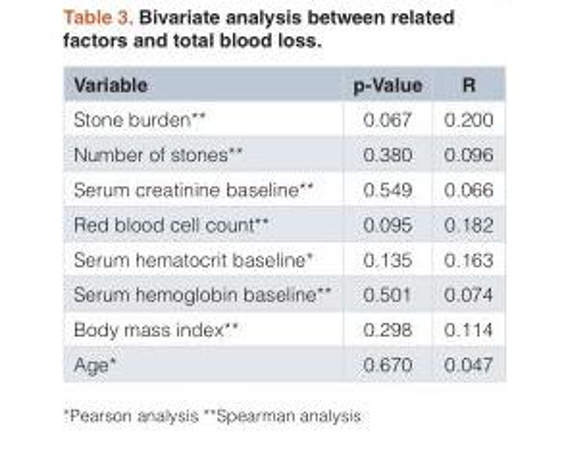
<table><thead><tr><td>Variable</td><td>p-Value</td><td>R</td></tr></thead><tbody><tr><td>Stone burden**</td><td>0.067</td><td>0.200</td></tr><tr><td>Number of stones**</td><td>0.380</td><td>0.096</td></tr><tr><td>Serum creatinine baseline**</td><td>0.549</td><td>0.066</td></tr><tr><td>Red blood cell count**</td><td>0.095</td><td>0.182</td></tr><tr><td>Serum hematocrit baseline*</td><td>0.135</td><td>0.163</td></tr><tr><td>Serum hemoglobin baseline**</td><td>0.501</td><td>0.074</td></tr><tr><td>Body mass index**</td><td>0.298</td><td>0.114</td></tr><tr><td>Age*</td><td>0.670</td><td>0.047</td></tr></tbody></table>